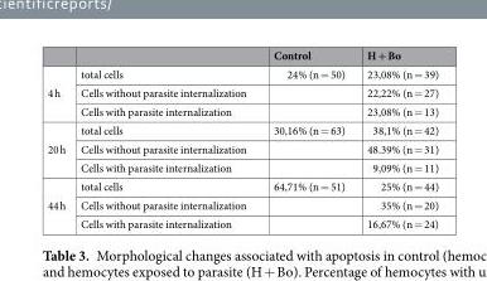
<table><thead><tr><td></td><td></td><td>Control</td><td>H + Bo</td></tr></thead><tbody><tr><td rowspan="3">4 h</td><td>total cells</td><td>24% (n = 50)</td><td>23,08% (n = 39)</td></tr><tr><td>Cells without parasite internalization</td><td></td><td>22,22% (n = 27)</td></tr><tr><td>Cells with parasite internalization</td><td></td><td>23,08% (n = 13)</td></tr><tr><td rowspan="3">20 h</td><td>total cells</td><td>30,16% (n = 63)</td><td>38,1% (n = 42)</td></tr><tr><td>Cells without parasite internalization</td><td></td><td>48.39% (n = 31)</td></tr><tr><td>Cells with parasite internalization</td><td></td><td>9,09% (n = 11)</td></tr><tr><td rowspan="3">44 h</td><td>total cells</td><td>64,71% (n = 51)</td><td>25% (n = 44)</td></tr><tr><td>Cells without parasite internalization</td><td></td><td>35% (n = 20)</td></tr><tr><td>Cells with parasite internalization</td><td></td><td>16,67% (n = 24)</td></tr></tbody></table>